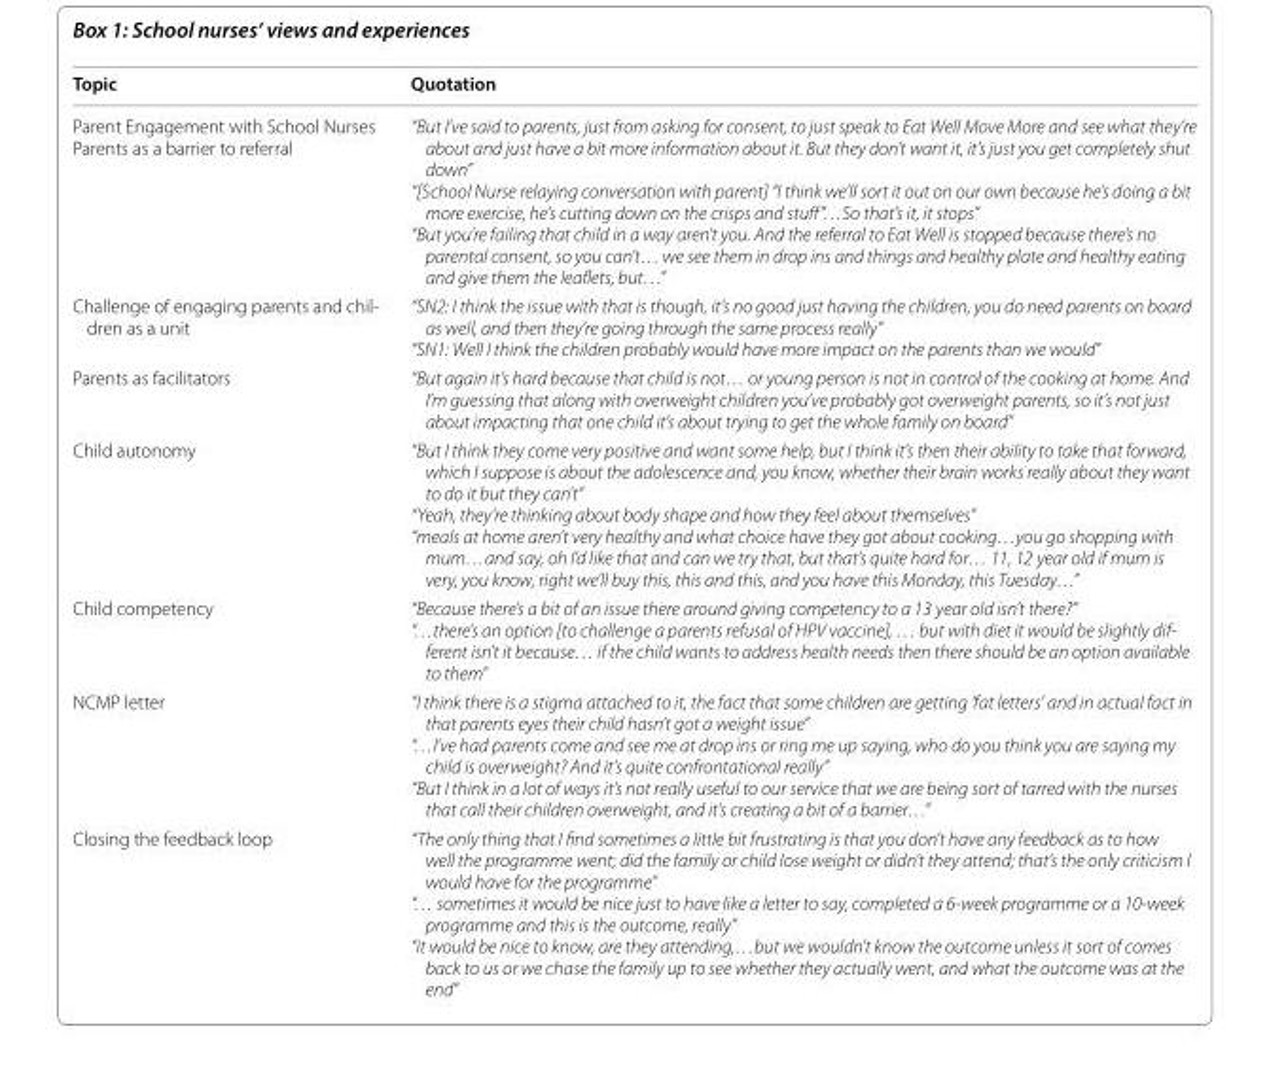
<table><thead><tr><td>Topic</td><td>Quotation</td></tr></thead><tbody><tr><td>Parent Engagement with School Nurses Parents as a barrier to referral</td><td>“But I’ve said to parents, just from asking for consent, to just speak to Eat Well Move More and see what they’re about and just have a bit more information about it. But they don’t want it, it’s just you get completely shut down” “[School Nurse relaying conversation with parent] “I think we’ll sort it out on our own because he’s doing a bit more exercise, he’s cutting down on the crisps and stuff”…So that’s it, it stops” “But you’re failing that child in a way aren’t you. And the referral to Eat Well is stopped because there’s no parental consent, so you can’t… we see them in drop ins and things and healthy plate and healthy eating and give them the leaflets, but…”</td></tr><tr><td>Challenge of engaging parents and chil- dren as a unit</td><td>“SN2: I think the issue with that is though, it’s no good just having the children, you do need parents on board as well, and then they’re going through the same process really” “SN1: Well I think the children probably would have more impact on the parents than we would”</td></tr><tr><td>Parents as facilitators</td><td>“But again it’s hard because that child is not… or young person is not in control of the cooking at home. And I’m guessing that along with overweight children you’ve probably got overweight parents, so it’s not just about impacting that one child it’s about trying to get the whole family on board”</td></tr><tr><td>Child autonomy</td><td>“But I think they come very positive and want some help, but I think it’s then their ability to take that forward, which I suppose is about the adolescence and, you know, whether their brain works really about they want to do it but they can’t” “Yeah, they’re thinking about body shape and how they feel about themselves” “meals at home aren’t very healthy and what choice have they got about cooking…you go shopping with mum…and say, oh I’d like that and can we try that, but that’s quite hard for… 11, 12 year old if mum is very, you know, right we’ll buy this, this and this, and you have this Monday, this Tuesday…”</td></tr><tr><td>Child competency</td><td>“Because there’s a bit of an issue there around giving competency to a 13 year old isn’t there?” “…there’s an option [to challenge a parents refusal of HPV vaccine], … but with diet it would be slightly dif- ferent isn’t it because… if the child wants to address health needs then there should be an option available to them”</td></tr><tr><td>NCMP letter</td><td>“I think there is a stigma attached to it, the fact that some children are getting ‘fat letters’ and in actual fact in that parents eyes their child hasn’t got a weight issue” “…I’ve had parents come and see me at drop ins or ring me up saying, who do you think you are saying my child is overweight? And it’s quite confrontational really” “But I think in a lot of ways it’s not really useful to our service that we are being sort of tarred with the nurses that call their children overweight, and it’s creating a bit of a barrier…”</td></tr><tr><td>Closing the feedback loop</td><td>“The only thing that I find sometimes a little bit frustrating is that you don’t have any feedback as to how well the programme went; did the family or child lose weight or didn’t they attend; that’s the only criticism I would have for the programme” “… sometimes it would be nice just to have like a letter to say, completed a 6-week programme or a 10-week programme and this is the outcome, really” “it would be nice to know, are they attending,…but we wouldn’t know the outcome unless it sort of comes back to us or we chase the family up to see whether they actually went, and what the outcome was at the end”</td></tr></tbody></table>